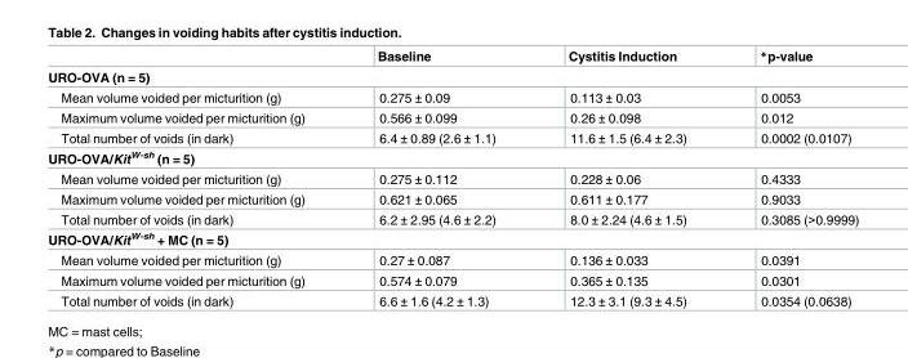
<table><thead><tr><td></td><td>Baseline</td><td>Cystitis Induction</td><td>*p-value</td></tr></thead><tbody><tr><td colspan="4">URO-OVA (n = 5)</td></tr><tr><td>Mean volume voided per micturition (g)</td><td>0.275 ± 0.09</td><td>0.113 ± 0.03</td><td>0.0053</td></tr><tr><td>Maximum volume voided per micturition (g)</td><td>0.566 ± 0.099</td><td>0.26 ± 0.098</td><td>0.012</td></tr><tr><td>Total number of voids (in dark)</td><td>6.4 ± 0.89 (2.6 ± 1.1)</td><td>11.6 ± 1.5 (6.4 ± 2.3)</td><td>0.0002 (0.0107)</td></tr><tr><td colspan="4">URO-OVA/Kit<sup>W-sh</sup> (n = 5)</td></tr><tr><td>Mean volume voided per micturition (g)</td><td>0.275 ± 0.112</td><td>0.228 ± 0.06</td><td>0.4333</td></tr><tr><td>Maximum volume voided per micturition (g)</td><td>0.621 ± 0.065</td><td>0.611 ± 0.177</td><td>0.9033</td></tr><tr><td>Total number of voids (in dark)</td><td>6.2 ± 2.95 (4.6 ± 2.2)</td><td>8.0 ± 2.24 (4.6 ± 1.5)</td><td>0.3085 (&gt;0.9999)</td></tr><tr><td colspan="4">URO-OVA/Kit<sup>W-sh</sup> + MC (n = 5)</td></tr><tr><td>Mean volume voided per micturition (g)</td><td>0.27 ± 0.087</td><td>0.136 ± 0.033</td><td>0.0391</td></tr><tr><td>Maximum volume voided per micturition (g)</td><td>0.574 ± 0.079</td><td>0.365 ± 0.135</td><td>0.0301</td></tr><tr><td>Total number of voids (in dark)</td><td>6.6 ± 1.6 (4.2 ± 1.3)</td><td>12.3 ± 3.1 (9.3 ± 4.5)</td><td>0.0354 (0.0638)</td></tr></tbody></table>